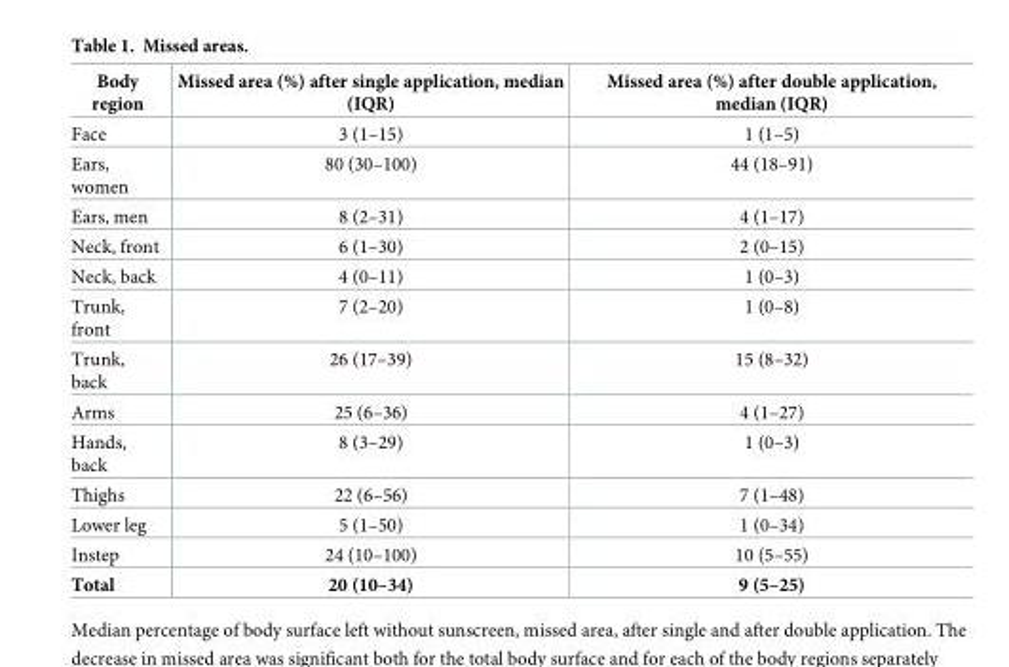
<table><thead><tr><td>Body region</td><td>Missed area (%) after single application, median (IQR)</td><td>Missed area (%) after double application, median (IQR)</td></tr></thead><tbody><tr><td>Face</td><td>3 (1–15)</td><td>1 (1–5)</td></tr><tr><td>Ears, women</td><td>80 (30–100)</td><td>44 (18–91)</td></tr><tr><td>Ears, men</td><td>8 (2–31)</td><td>4 (1–17)</td></tr><tr><td>Neck, front</td><td>6 (1–30)</td><td>2 (0–15)</td></tr><tr><td>Neck, back</td><td>4 (0–11)</td><td>1 (0–3)</td></tr><tr><td>Trunk, front</td><td>7 (2–20)</td><td>1 (0–8)</td></tr><tr><td>Trunk, back</td><td>26 (17–39)</td><td>15 (8–32)</td></tr><tr><td>Arms</td><td>25 (6–36)</td><td>4 (1–27)</td></tr><tr><td>Hands, back</td><td>8 (3–29)</td><td>1 (0–3)</td></tr><tr><td>Thighs</td><td>22 (6–56)</td><td>7 (1–48)</td></tr><tr><td>Lower leg</td><td>5 (1–50)</td><td>1 (0–34)</td></tr><tr><td>Instep</td><td>24 (10–100)</td><td>10 (5–55)</td></tr><tr><td>Total</td><td>20 (10–34)</td><td>9 (5–25)</td></tr></tbody></table>